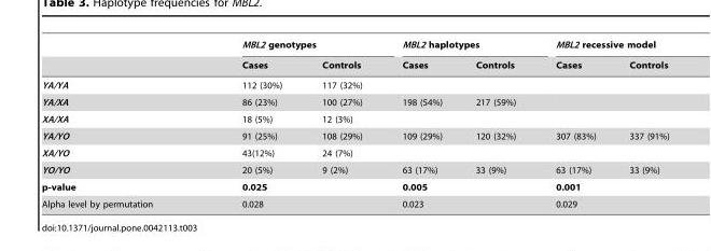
<table><thead><tr><td rowspan="2"></td><td colspan="2">MBL2 genotypes</td><td colspan="2">MBL2 haplotypes</td><td colspan="2">MBL2 recessive model</td></tr><tr><td>Cases</td><td>Controls</td><td>Cases</td><td>Controls</td><td>Cases</td><td>Controls</td></tr></thead><tbody><tr><td>YA/YA</td><td>112 (30%)</td><td>117 (32%)</td><td colspan="2"></td><td colspan="2"></td></tr><tr><td>YA/XA</td><td>86 (23%)</td><td>100 (27%)</td><td>198 (54%)</td><td>217 (59%)</td><td colspan="2"></td></tr><tr><td>XA/XA</td><td>18 (5%)</td><td>12 (3%)</td><td colspan="2"></td><td colspan="2"></td></tr><tr><td>YA/YO</td><td>91 (25%)</td><td>108 (29%)</td><td>109 (29%)</td><td>120 (32%)</td><td>307 (83%)</td><td>337 (91%)</td></tr><tr><td>XA/YO</td><td>43(12%)</td><td>24 (7%)</td><td colspan="2"></td><td></td><td></td></tr><tr><td>YO/YO</td><td>20 (5%)</td><td>9 (2%)</td><td>63 (17%)</td><td>33 (9%)</td><td>63 (17%)</td><td>33 (9%)</td></tr><tr><td>p-value</td><td colspan="2">0.025</td><td colspan="2">0.005</td><td colspan="2">0.001</td></tr><tr><td>Alpha level by permutation</td><td colspan="2">0.028</td><td colspan="2">0.023</td><td colspan="2">0.029</td></tr></tbody></table>